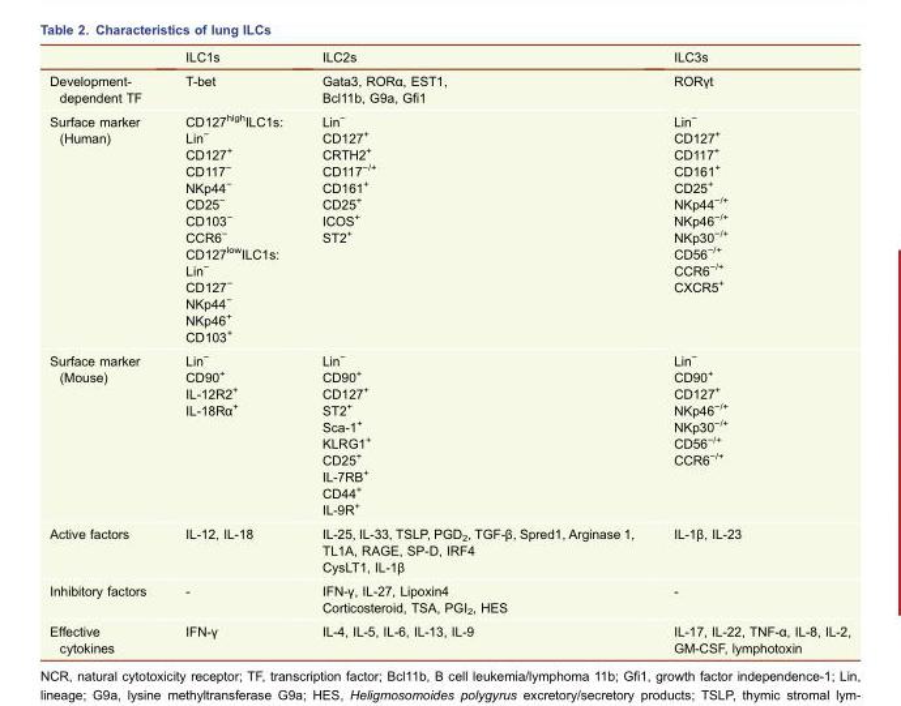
<table><thead><tr><td></td><td>ILC1s</td><td>ILC2s</td><td>ILC3s</td></tr></thead><tbody><tr><td>Development- dependent TF</td><td>T-bet</td><td>Gata3, RORα, EST1, Bcl11b, G9a, Gfi1</td><td>RORγt</td></tr><tr><td>Surface marker (Human)</td><td>CD127<sup>high</sup>ILC1s: Lin<sup>−</sup> CD127<sup>+</sup> CD117<sup>−</sup> NKp44<sup>−</sup> CD25<sup>−</sup> CD103<sup>−</sup> CCR6<sup>−</sup> CD127<sup>low</sup>ILC1s: Lin<sup>−</sup> CD127<sup>−</sup> NKp44<sup>−</sup> NKp46<sup>+</sup> CD103<sup>+</sup></td><td>Lin<sup>−</sup> CD127<sup>+</sup> CRTH2<sup>+</sup> CD117<sup>−/+</sup> CD161<sup>+</sup> CD25<sup>+</sup> ICOS<sup>+</sup> ST2<sup>+</sup></td><td>Lin<sup>−</sup> CD127<sup>+</sup> CD117<sup>+</sup> CD161<sup>+</sup> CD25<sup>+</sup> NKp44<sup>−/+</sup> NKp46<sup>−/+</sup> NKp30<sup>−/+</sup> CD56<sup>−/+</sup> CCR6<sup>−/+</sup> CXCR5<sup>+</sup></td></tr><tr><td>Surface marker (Mouse)</td><td>Lin<sup>−</sup> CD90<sup>+</sup> IL-12R2<sup>+</sup> IL-18Rα<sup>+</sup></td><td>Lin<sup>−</sup> CD90<sup>+</sup> CD127<sup>+</sup> ST2<sup>+</sup> Sca-1<sup>+</sup> KLRG1<sup>+</sup> CD25<sup>+</sup> IL-7RB<sup>+</sup> CD44<sup>+</sup> IL-9R<sup>+</sup></td><td>Lin<sup>−</sup> CD90<sup>+</sup> CD127<sup>+</sup> NKp46<sup>−/+</sup> NKp30<sup>−/+</sup> CD56<sup>−/+</sup> CCR6<sup>−/+</sup></td></tr><tr><td>Active factors</td><td>IL-12, IL-18</td><td>IL-25, IL-33, TSLP, PGD<sub>2</sub>, TGF-β, Spred1, Arginase 1, TL1A, RAGE, SP-D, IRF4 CysLT1, IL-1β</td><td>IL-1β, IL-23</td></tr><tr><td>Inhibitory factors</td><td>-</td><td>IFN-γ, IL-27, Lipoxin4 Corticosteroid, TSA, PGI<sub>2</sub>, HES</td><td>-</td></tr><tr><td>Effective cytokines</td><td>IFN-γ</td><td>IL-4, IL-5, IL-6, IL-13, IL-9</td><td>IL-17, IL-22, TNF-α, IL-8, IL-2, GM-CSF, lymphotoxin</td></tr></tbody></table>